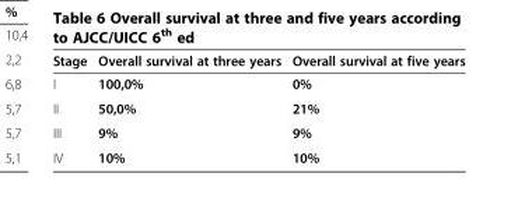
<table><thead><tr><td>Stage</td><td>Overall survival at three years</td><td>Overall survival at five years</td></tr></thead><tbody><tr><td>I</td><td>100,0%</td><td>0%</td></tr><tr><td>II</td><td>50,0%</td><td>21%</td></tr><tr><td>III</td><td>9%</td><td>9%</td></tr><tr><td>IV</td><td>10%</td><td>10%</td></tr></tbody></table>